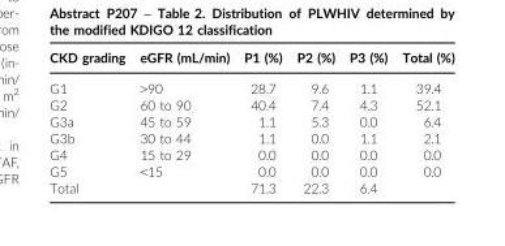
<table><thead><tr><td>CKD grading</td><td>eGFR (mL/min)</td><td>P1 (%)</td><td>P2 (%)</td><td>P3 (%)</td><td>Total (%)</td></tr></thead><tbody><tr><td>G1</td><td>&gt;90</td><td>28.7</td><td>9.6</td><td>1.1</td><td>39.4</td></tr><tr><td>G2</td><td>60 to 90</td><td>40.4</td><td>7.4</td><td>4.3</td><td>52.1</td></tr><tr><td>G3a</td><td>45 to 59</td><td>1.1</td><td>5.3</td><td>0.0</td><td>6.4</td></tr><tr><td>G3b</td><td>30 to 44</td><td>1.1</td><td>0.0</td><td>1.1</td><td>2.1</td></tr><tr><td>G4</td><td>15 to 29</td><td>0.0</td><td>0.0</td><td>0.0</td><td>0.0</td></tr><tr><td>G5</td><td>&lt;15</td><td>0.0</td><td>0.0</td><td>0.0</td><td>0.0</td></tr><tr><td>Total</td><td></td><td>71.3</td><td>22.3</td><td>6.4</td><td></td></tr></tbody></table>